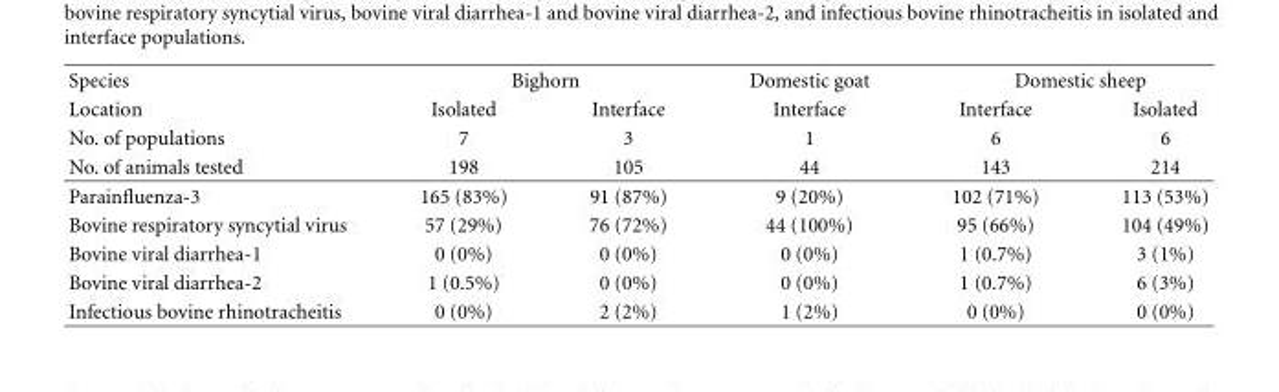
<table><thead><tr><td rowspan="4">Species Location No. of populations No. of animals tested</td><td colspan="2">Bighorn</td><td rowspan="4">Domestic goat Interface 1 44</td><td colspan="2">Domestic sheep</td></tr><tr><td rowspan="3">Isolated 7 198</td><td rowspan="3">Interface 3 105</td><td rowspan="3">Interface 6 143</td><td rowspan="3">Isolated 6 214</td></tr><tr></tr><tr></tr></thead><tbody><tr><td>Parainfluenza-3</td><td>165 (83%)</td><td>91 (87%)</td><td>9 (20%)</td><td>102 (71%)</td><td>113 (53%)</td></tr><tr><td>Bovine respiratory syncytial virus</td><td>57 (29%)</td><td>76 (72%)</td><td>44 (100%)</td><td>95 (66%)</td><td>104 (49%)</td></tr><tr><td>Bovine viral diarrhea-1</td><td>0 (0%)</td><td>0 (0%)</td><td>0 (0%)</td><td>1 (0.7%)</td><td>3 (1%)</td></tr><tr><td>Bovine viral diarrhea-2</td><td>1 (0.5%)</td><td>0 (0%)</td><td>0 (0%)</td><td>1 (0.7%)</td><td>6 (3%)</td></tr><tr><td>Infectious bovine rhinotracheitis</td><td>0 (0%)</td><td>2 (2%)</td><td>1 (2%)</td><td>0 (0%)</td><td>0 (0%)</td></tr></tbody></table>